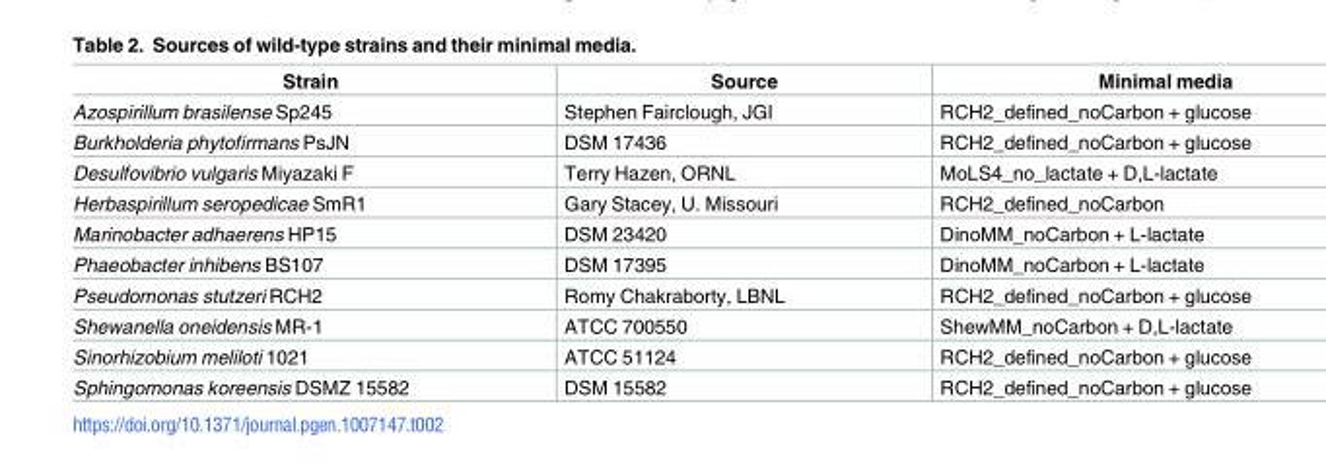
<table><thead><tr><td>Strain</td><td>Source</td><td>Minimal media</td></tr></thead><tbody><tr><td>Azospirillum brasilense Sp245</td><td>Stephen Fairclough, JGI</td><td>RCH2_defined_noCarbon + glucose</td></tr><tr><td>Burkholderia phytofirmans PsJN</td><td>DSM 17436</td><td>RCH2_defined_noCarbon + glucose</td></tr><tr><td>Desulfovibrio vulgaris Miyazaki F</td><td>Terry Hazen, ORNL</td><td>MoLS4_no_lactate + D,L-lactate</td></tr><tr><td>Herbaspirillum seropedicae SmR1</td><td>Gary Stacey, U. Missouri</td><td>RCH2_defined_noCarbon</td></tr><tr><td>Marinobacter adhaerens HP15</td><td>DSM 23420</td><td>DinoMM_noCarbon + L-lactate</td></tr><tr><td>Phaeobacter inhibens BS107</td><td>DSM 17395</td><td>DinoMM_noCarbon + L-lactate</td></tr><tr><td>Pseudomonas stutzeri RCH2</td><td>Romy Chakraborty, LBNL</td><td>RCH2_defined_noCarbon + glucose</td></tr><tr><td>Shewanella oneidensis MR-1</td><td>ATCC 700550</td><td>ShewMM_noCarbon + D,L-lactate</td></tr><tr><td>Sinorhizobium meliloti 1021</td><td>ATCC 51124</td><td>RCH2_defined_noCarbon + glucose</td></tr><tr><td>Sphingomonas koreensis DSMZ 15582</td><td>DSM 15582</td><td>RCH2_defined_noCarbon + glucose</td></tr></tbody></table>